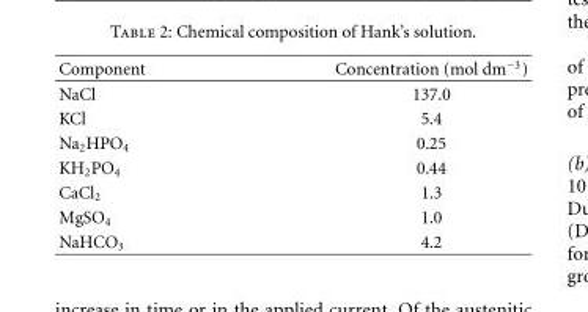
<table><thead><tr><td>Component</td><td>Concentration (mol dm<sup>−3</sup>)</td></tr></thead><tbody><tr><td>NaCl</td><td>137.0</td></tr><tr><td>KCl</td><td>5.4</td></tr><tr><td>Na<sub>2</sub>HPO<sub>4</sub></td><td>0.25</td></tr><tr><td>KH<sub>2</sub>PO<sub>4</sub></td><td>0.44</td></tr><tr><td>CaCl<sub>2</sub></td><td>1.3</td></tr><tr><td>MgSO<sub>4</sub></td><td>1.0</td></tr><tr><td>NaHCO<sub>3</sub></td><td>4.2</td></tr></tbody></table>